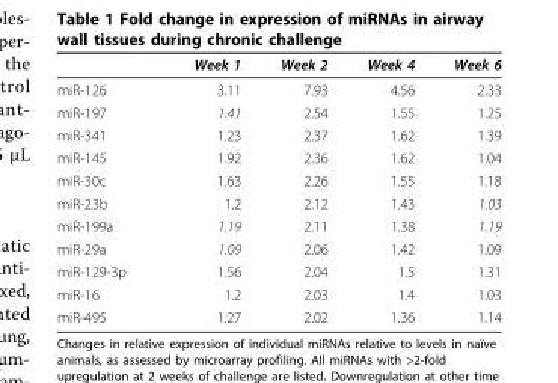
<table><thead><tr><td></td><td>Week 1</td><td>Week 2</td><td>Week 4</td><td>Week 6</td></tr></thead><tbody><tr><td>miR-126</td><td>3.11</td><td>7.93</td><td>4.56</td><td>2.33</td></tr><tr><td>miR-197</td><td>1.41</td><td>2.54</td><td>1.55</td><td>1.25</td></tr><tr><td>miR-341</td><td>1.23</td><td>2.37</td><td>1.62</td><td>1.39</td></tr><tr><td>miR-145</td><td>1.92</td><td>2.36</td><td>1.62</td><td>1.04</td></tr><tr><td>miR-30c</td><td>1.63</td><td>2.26</td><td>1.55</td><td>1.18</td></tr><tr><td>miR-23b</td><td>1.2</td><td>2.12</td><td>1.43</td><td>1.03</td></tr><tr><td>miR-199a</td><td>1.19</td><td>2.11</td><td>1.38</td><td>1.19</td></tr><tr><td>miR-29a</td><td>1.09</td><td>2.06</td><td>1.42</td><td>1.09</td></tr><tr><td>miR-129-3p</td><td>1.56</td><td>2.04</td><td>1.5</td><td>1.31</td></tr><tr><td>miR-16</td><td>1.2</td><td>2.03</td><td>1.4</td><td>1.03</td></tr><tr><td>miR-495</td><td>1.27</td><td>2.02</td><td>1.36</td><td>1.14</td></tr></tbody></table>